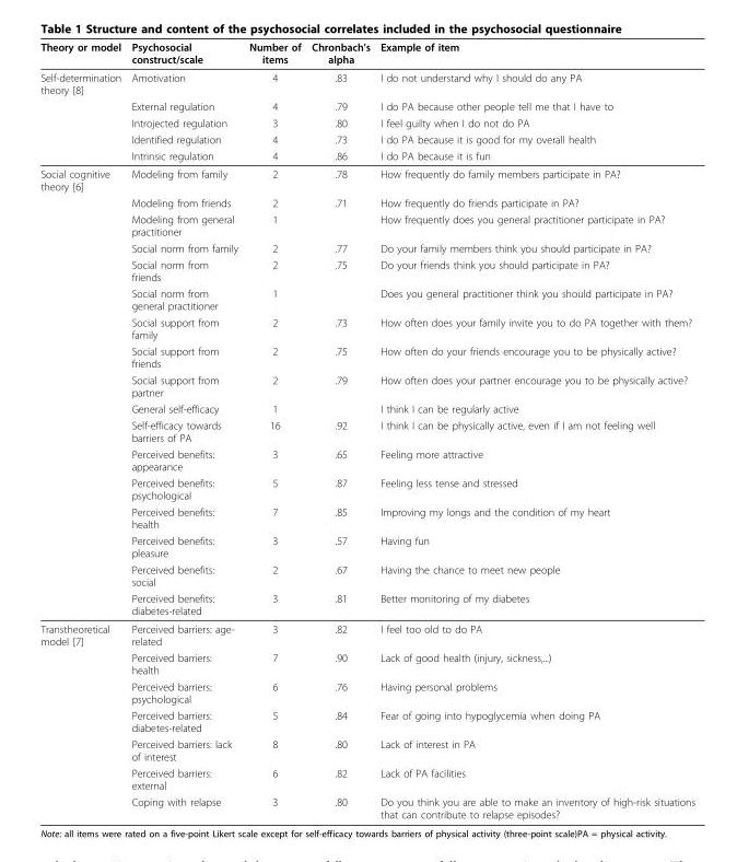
<table><thead><tr><td>Theory or model</td><td>Psychosocial construct/scale</td><td>Number of items</td><td>Chronbach’s alpha</td><td>Example of item</td></tr></thead><tbody><tr><td rowspan="5">Self-determination theory [8]</td><td>Amotivation</td><td>4</td><td>.83</td><td>I do not understand why I should do any PA</td></tr><tr><td>External regulation</td><td>4</td><td>.79</td><td>I do PA because other people tell me that I have to</td></tr><tr><td>Introjected regulation</td><td>3</td><td>.80</td><td>I feel guilty when I do not do PA</td></tr><tr><td>Identified regulation</td><td>4</td><td>.73</td><td>I do PA because it is good for my overall health</td></tr><tr><td>Intrinsic regulation</td><td>4</td><td>.86</td><td>I do PA because it is fun</td></tr><tr><td rowspan="17">Social cognitive theory [6]</td><td>Modeling from family</td><td>2</td><td>.78</td><td>How frequently do family members participate in PA?</td></tr><tr><td>Modeling from friends</td><td>2</td><td>.71</td><td>How frequently do friends participate in PA?</td></tr><tr><td>Modeling from general practitioner</td><td>1</td><td></td><td>How frequently does you general practitioner participate in PA?</td></tr><tr><td>Social norm from family</td><td>2</td><td>.77</td><td>Do your family members think you should participate in PA?</td></tr><tr><td>Social norm from friends</td><td>2</td><td>.75</td><td>Do your friends think you should participate in PA?</td></tr><tr><td>Social norm from general practitioner</td><td>1</td><td></td><td>Does you general practitioner think you should participate in PA?</td></tr><tr><td>Social support from family</td><td>2</td><td>.73</td><td>How often does your family invite you to do PA together with them?</td></tr><tr><td>Social support from friends</td><td>2</td><td>.75</td><td>How often do your friends encourage you to be physically active?</td></tr><tr><td>Social support from partner</td><td>2</td><td>.79</td><td>How often does your partner encourage you to be physically active?</td></tr><tr><td>General self-efficacy</td><td>1</td><td></td><td>I think I can be regularly active</td></tr><tr><td>Self-efficacy towards barriers of PA</td><td>16</td><td>.92</td><td>I think I can be physically active, even if I am not feeling well</td></tr><tr><td>Perceived benefits: appearance</td><td>3</td><td>.65</td><td>Feeling more attractive</td></tr><tr><td>Perceived benefits: psychological</td><td>5</td><td>.87</td><td>Feeling less tense and stressed</td></tr><tr><td>Perceived benefits: health</td><td>7</td><td>.85</td><td>Improving my longs and the condition of my heart</td></tr><tr><td>Perceived benefits: pleasure</td><td>3</td><td>.57</td><td>Having fun</td></tr><tr><td>Perceived benefits: social</td><td>2</td><td>.67</td><td>Having the chance to meet new people</td></tr><tr><td>Perceived benefits: diabetes-related</td><td>3</td><td>.81</td><td>Better monitoring of my diabetes</td></tr><tr><td rowspan="7">Transtheoretical model [7]</td><td>Perceived barriers: age- related</td><td>3</td><td>.82</td><td>I feel too old to do PA</td></tr><tr><td>Perceived barriers: health</td><td>7</td><td>.90</td><td>Lack of good health (injury, sickness,...)</td></tr><tr><td>Perceived barriers: psychological</td><td>6</td><td>.76</td><td>Having personal problems</td></tr><tr><td>Perceived barriers: diabetes-related</td><td>5</td><td>.84</td><td>Fear of going into hypoglycemia when doing PA</td></tr><tr><td>Perceived barriers: lack of interest</td><td>8</td><td>.80</td><td>Lack of interest in PA</td></tr><tr><td>Perceived barriers: external</td><td>6</td><td>.82</td><td>Lack of PA facilities</td></tr><tr><td>Coping with relapse</td><td>3</td><td>.80</td><td>Do you think you are able to make an inventory of high-risk situations that can contribute to relapse episodes?</td></tr></tbody></table>